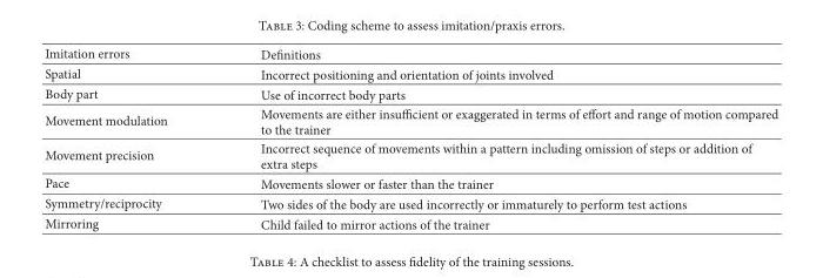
<table><thead><tr><td>Imitation errors</td><td>Definitions</td></tr></thead><tbody><tr><td>Spatial</td><td>Incorrect positioning and orientation of joints involved</td></tr><tr><td>Body part</td><td>Use of incorrect body parts</td></tr><tr><td>Movement modulation</td><td>Movements are either insufficient or exaggerated in terms of effort and range of motion compared to the trainer</td></tr><tr><td>Movement precision</td><td>Incorrect sequence of movements within a pattern including omission of steps or addition of extra steps</td></tr><tr><td>Pace</td><td>Movements slower or faster than the trainer</td></tr><tr><td>Symmetry/reciprocity</td><td>Two sides of the body are used incorrectly or immaturely to perform test actions</td></tr><tr><td>Mirroring</td><td>Child failed to mirror actions of the trainer</td></tr></tbody></table>